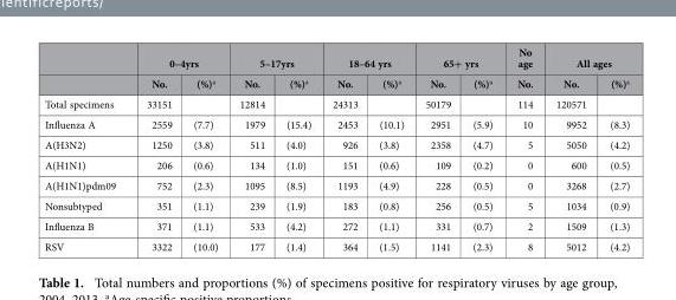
<table><thead><tr><td rowspan="2"></td><td colspan="2">0–4yrs</td><td colspan="2">5–17yrs</td><td colspan="2">18–64 yrs</td><td colspan="2">65+ yrs</td><td rowspan="2">No age No.</td><td colspan="2">All ages</td></tr><tr><td>No.</td><td>(%)<sup>a</sup></td><td>No.</td><td>(%)<sup>a</sup></td><td>No.</td><td>(%)<sup>a</sup></td><td>No.</td><td>(%)<sup>a</sup></td><td>No.</td><td>(%)<sup>a</sup></td></tr></thead><tbody><tr><td>Total specimens</td><td>33151</td><td></td><td>12814</td><td></td><td>24313</td><td></td><td>50179</td><td></td><td>114</td><td>120571</td><td></td></tr><tr><td>Influenza A</td><td>2559</td><td>(7.7)</td><td>1979</td><td>(15.4)</td><td>2453</td><td>(10.1)</td><td>2951</td><td>(5.9)</td><td>10</td><td>9952</td><td>(8.3)</td></tr><tr><td>A(H3N2)</td><td>1250</td><td>(3.8)</td><td>511</td><td>(4.0)</td><td>926</td><td>(3.8)</td><td>2358</td><td>(4.7)</td><td>5</td><td>5050</td><td>(4.2)</td></tr><tr><td>A(H1N1)</td><td>206</td><td>(0.6)</td><td>134</td><td>(1.0)</td><td>151</td><td>(0.6)</td><td>109</td><td>(0.2)</td><td>0</td><td>600</td><td>(0.5)</td></tr><tr><td>A(H1N1)pdm09</td><td>752</td><td>(2.3)</td><td>1095</td><td>(8.5)</td><td>1193</td><td>(4.9)</td><td>228</td><td>(0.5)</td><td>0</td><td>3268</td><td>(2.7)</td></tr><tr><td>Nonsubtyped</td><td>351</td><td>(1.1)</td><td>239</td><td>(1.9)</td><td>183</td><td>(0.8)</td><td>256</td><td>(0.5)</td><td>5</td><td>1034</td><td>(0.9)</td></tr><tr><td>Influenza B</td><td>371</td><td>(1.1)</td><td>533</td><td>(4.2)</td><td>272</td><td>(1.1)</td><td>331</td><td>(0.7)</td><td>2</td><td>1509</td><td>(1.3)</td></tr><tr><td>RSV</td><td>3322</td><td>(10.0)</td><td>177</td><td>(1.4)</td><td>364</td><td>(1.5)</td><td>1141</td><td>(2.3)</td><td>8</td><td>5012</td><td>(4.2)</td></tr></tbody></table>